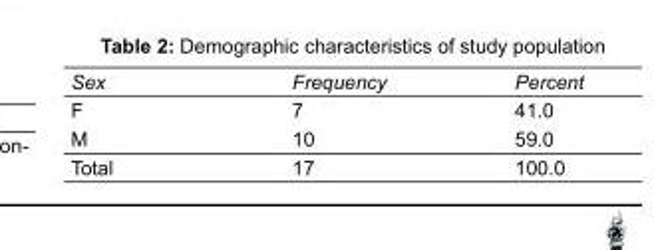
<table><tbody><tr><td>Sex</td><td>Frequency</td><td>Percent</td></tr><tr><td>F</td><td>7</td><td>41.0</td></tr><tr><td>M</td><td>10</td><td>59.0</td></tr><tr><td>Total</td><td>17</td><td>100.0</td></tr></tbody></table>